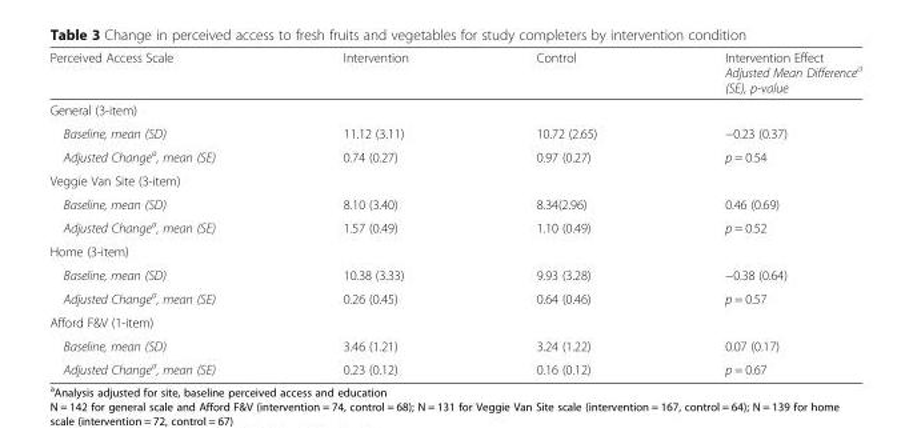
<table><thead><tr><td>Perceived Access Scale</td><td>Intervention</td><td>Control</td><td>Intervention Effect Adjusted Mean Difference<sup>a</sup> (SE), p-value</td></tr></thead><tbody><tr><td colspan="4">General (3-item)</td></tr><tr><td>Baseline, mean (SD)</td><td>11.12 (3.11)</td><td>10.72 (2.65)</td><td>−0.23 (0.37)</td></tr><tr><td>Adjusted Change<sup>a</sup>, mean (SE)</td><td>0.74 (0.27)</td><td>0.97 (0.27)</td><td>p = 0.54</td></tr><tr><td colspan="4">Veggie Van Site (3-item)</td></tr><tr><td>Baseline, mean (SD)</td><td>8.10 (3.40)</td><td>8.34(2.96)</td><td>0.46 (0.69)</td></tr><tr><td>Adjusted Change<sup>a</sup>, mean (SE)</td><td>1.57 (0.49)</td><td>1.10 (0.49)</td><td>p = 0.52</td></tr><tr><td colspan="4">Home (3-item)</td></tr><tr><td>Baseline, mean (SD)</td><td>10.38 (3.33)</td><td>9.93 (3.28)</td><td>−0.38 (0.64)</td></tr><tr><td>Adjusted Change<sup>a</sup>, mean (SE)</td><td>0.26 (0.45)</td><td>0.64 (0.46)</td><td>p = 0.57</td></tr><tr><td colspan="4">Afford F&amp;V (1-item)</td></tr><tr><td>Baseline, mean (SD)</td><td>3.46 (1.21)</td><td>3.24 (1.22)</td><td>0.07 (0.17)</td></tr><tr><td>Adjusted Change<sup>a</sup>, mean (SE)</td><td>0.23 (0.12)</td><td>0.16 (0.12)</td><td>p = 0.67</td></tr></tbody></table>